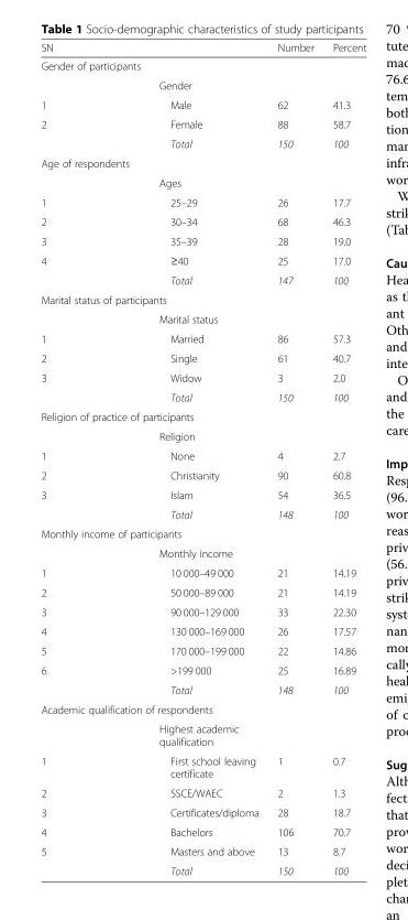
<table><thead><tr><td>SN</td><td></td><td>Number</td><td>Percent</td></tr></thead><tbody><tr><td colspan="4">Gender of participants</td></tr><tr><td></td><td>Gender</td><td></td><td></td></tr><tr><td>1</td><td>Male</td><td>62</td><td>41.3</td></tr><tr><td rowspan="2">2</td><td>Female</td><td>88</td><td>58.7</td></tr><tr><td>Total</td><td>150</td><td>100</td></tr><tr><td colspan="4">Age of respondents</td></tr><tr><td></td><td>Ages</td><td></td><td></td></tr><tr><td>1</td><td>25–29</td><td>26</td><td>17.7</td></tr><tr><td>2</td><td>30–34</td><td>68</td><td>46.3</td></tr><tr><td>3</td><td>35–39</td><td>28</td><td>19.0</td></tr><tr><td rowspan="2">4</td><td>≥40</td><td>25</td><td>17.0</td></tr><tr><td>Total</td><td>147</td><td>100</td></tr><tr><td colspan="4">Marital status of participants</td></tr><tr><td></td><td>Marital status</td><td></td><td></td></tr><tr><td>1</td><td>Married</td><td>86</td><td>57.3</td></tr><tr><td>2</td><td>Single</td><td>61</td><td>40.7</td></tr><tr><td rowspan="2">3</td><td>Widow</td><td>3</td><td>2.0</td></tr><tr><td>Total</td><td>150</td><td>100</td></tr><tr><td colspan="4">Religion of practice of participants</td></tr><tr><td></td><td>Religion</td><td></td><td></td></tr><tr><td>1</td><td>None</td><td>4</td><td>2.7</td></tr><tr><td>2</td><td>Christianity</td><td>90</td><td>60.8</td></tr><tr><td rowspan="2">3</td><td>Islam</td><td>54</td><td>36.5</td></tr><tr><td>Total</td><td>148</td><td>100</td></tr><tr><td colspan="4">Monthly income of participants</td></tr><tr><td></td><td>Monthly income</td><td></td><td></td></tr><tr><td>1</td><td>10 000–49 000</td><td>21</td><td>14.19</td></tr><tr><td>2</td><td>50 000–89 000</td><td>21</td><td>14.19</td></tr><tr><td>3</td><td>90 000–129 000</td><td>33</td><td>22.30</td></tr><tr><td>4</td><td>130 000–169 000</td><td>26</td><td>17.57</td></tr><tr><td>5</td><td>170 000–199 000</td><td>22</td><td>14.86</td></tr><tr><td rowspan="2">6</td><td>&gt;199 000</td><td>25</td><td>16.89</td></tr><tr><td>Total</td><td>148</td><td>100</td></tr><tr><td colspan="4">Academic qualification of respondents</td></tr><tr><td></td><td>Highest academic qualification</td><td></td><td></td></tr><tr><td>1</td><td>First school leaving certificate</td><td>1</td><td>0.7</td></tr><tr><td>2</td><td>SSCE/WAEC</td><td>2</td><td>1.3</td></tr><tr><td>3</td><td>Certificates/diploma</td><td>28</td><td>18.7</td></tr><tr><td>4</td><td>Bachelors</td><td>106</td><td>70.7</td></tr><tr><td rowspan="2">5</td><td>Masters and above</td><td>13</td><td>8.7</td></tr><tr><td>Total</td><td>150</td><td>100</td></tr></tbody></table>